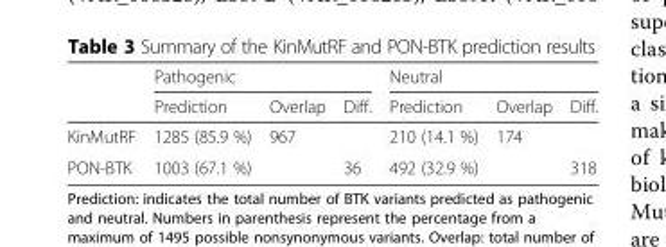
<table><thead><tr><td rowspan="2"></td><td colspan="3">Pathogenic</td><td colspan="3">Neutral</td></tr><tr><td>Prediction</td><td>Overlap</td><td>Diff.</td><td>Prediction</td><td>Overlap</td><td>Diff.</td></tr></thead><tbody><tr><td>KinMutRF</td><td>1285 (85.9 %)</td><td>967</td><td></td><td>210 (14.1 %)</td><td>174</td><td></td></tr><tr><td>PON-BTK</td><td>1003 (67.1 %)</td><td></td><td>36</td><td>492 (32.9 %)</td><td></td><td>318</td></tr></tbody></table>